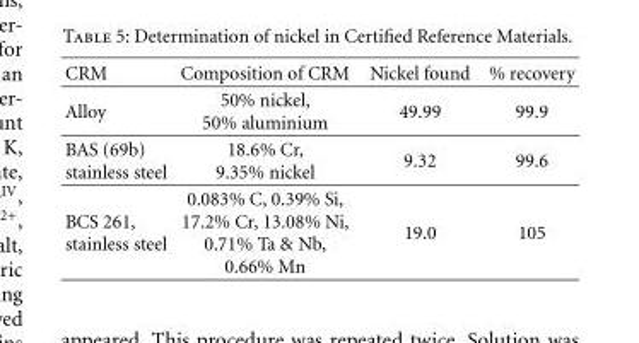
<table><thead><tr><td>CRM</td><td>Composition of CRM</td><td>Nickel found</td><td>% recovery</td></tr></thead><tbody><tr><td>Alloy</td><td>50% nickel, 50% aluminium</td><td>49.99</td><td>99.9</td></tr><tr><td>BAS (69b) stainless steel</td><td>18.6% Cr, 9.35% nickel</td><td>9.32</td><td>99.6</td></tr><tr><td>BCS 261, stainless steel</td><td>0.083% C, 0.39% Si, 17.2% Cr, 13.08% Ni, 0.71% Ta &amp; Nb, 0.66% Mn</td><td>19.0</td><td>105</td></tr></tbody></table>